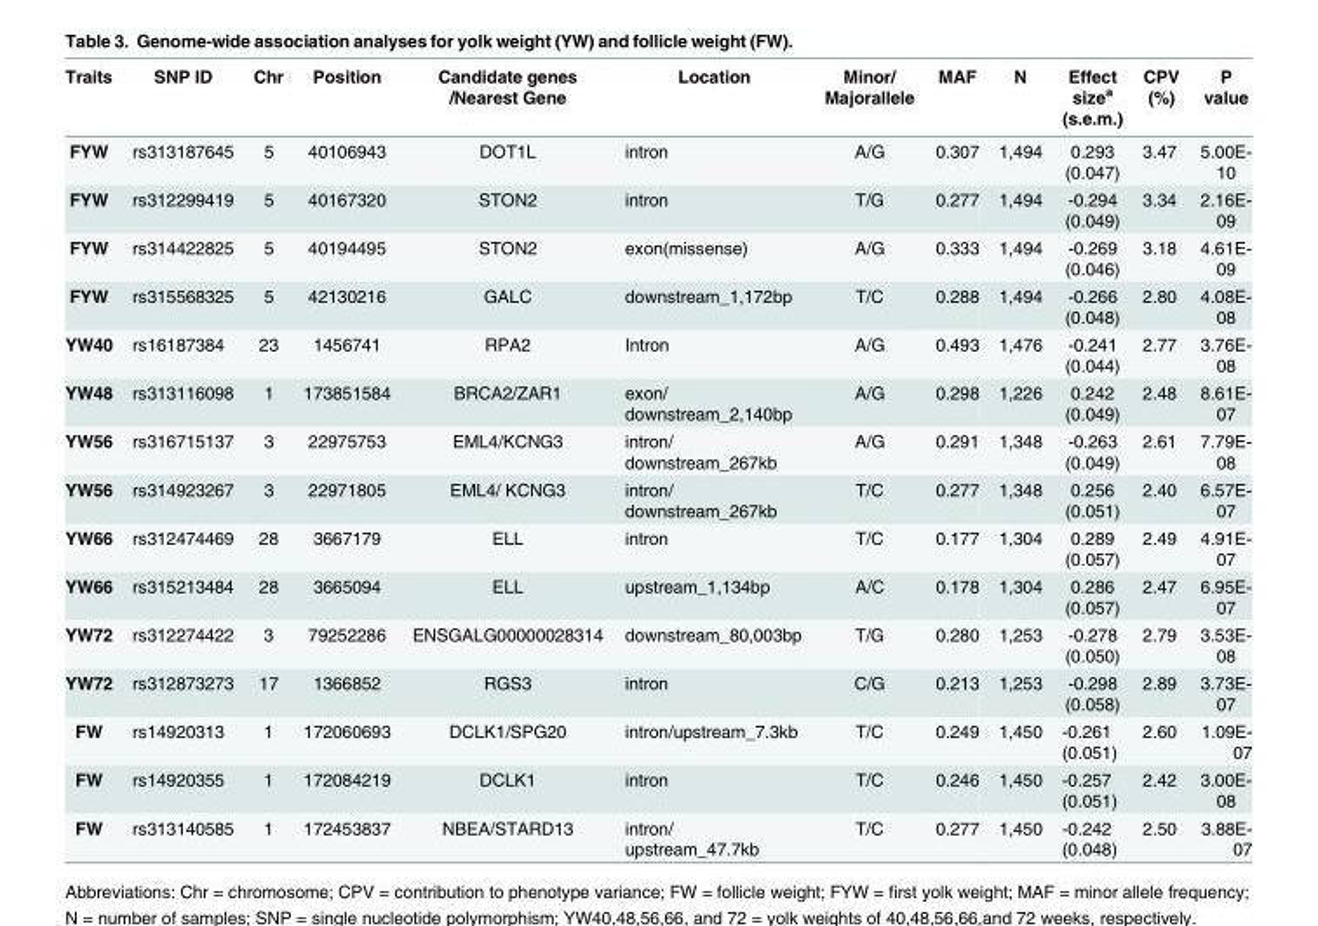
<table><thead><tr><td>Traits</td><td>SNP ID</td><td>Chr</td><td>Position</td><td>Candidate genes /Nearest Gene</td><td>Location</td><td>Minor/ Majorallele</td><td>MAF</td><td>N</td><td>Effect size<sup>a</sup> (s.e.m.)</td><td>CPV (%)</td><td>P value</td></tr></thead><tbody><tr><td>FYW</td><td>rs313187645</td><td>5</td><td>40106943</td><td>DOT1L</td><td>intron</td><td>A/G</td><td>0.307</td><td>1,494</td><td>0.293 (0.047)</td><td>3.47</td><td>5.00E- 10</td></tr><tr><td>FYW</td><td>rs312299419</td><td>5</td><td>40167320</td><td>STON2</td><td>intron</td><td>T/G</td><td>0.277</td><td>1,494</td><td>-0.294 (0.049)</td><td>3.34</td><td>2.16E- 09</td></tr><tr><td>FYW</td><td>rs314422825</td><td>5</td><td>40194495</td><td>STON2</td><td>exon(missense)</td><td>A/G</td><td>0.333</td><td>1,494</td><td>-0.269 (0.046)</td><td>3.18</td><td>4.61E- 09</td></tr><tr><td>FYW</td><td>rs315568325</td><td>5</td><td>42130216</td><td>GALC</td><td>downstream_1,172bp</td><td>T/C</td><td>0.288</td><td>1,494</td><td>-0.266 (0.048)</td><td>2.80</td><td>4.08E- 08</td></tr><tr><td>YW40</td><td>rs16187384</td><td>23</td><td>1456741</td><td>RPA2</td><td>Intron</td><td>A/G</td><td>0.493</td><td>1,476</td><td>-0.241 (0.044)</td><td>2.77</td><td>3.76E- 08</td></tr><tr><td>YW48</td><td>rs313116098</td><td>1</td><td>173851584</td><td>BRCA2/ZAR1</td><td>exon/ downstream_2,140bp</td><td>A/G</td><td>0.298</td><td>1,226</td><td>0.242 (0.049)</td><td>2.48</td><td>8.61E- 07</td></tr><tr><td>YW56</td><td>rs316715137</td><td>3</td><td>22975753</td><td>EML4/KCNG3</td><td>intron/ downstream_267kb</td><td>A/G</td><td>0.291</td><td>1,348</td><td>-0.263 (0.049)</td><td>2.61</td><td>7.79E- 08</td></tr><tr><td>YW56</td><td>rs314923267</td><td>3</td><td>22971805</td><td>EML4/ KCNG3</td><td>intron/ downstream_267kb</td><td>T/C</td><td>0.277</td><td>1,348</td><td>0.256 (0.051)</td><td>2.40</td><td>6.57E- 07</td></tr><tr><td>YW66</td><td>rs312474469</td><td>28</td><td>3667179</td><td>ELL</td><td>intron</td><td>T/C</td><td>0.177</td><td>1,304</td><td>0.289 (0.057)</td><td>2.49</td><td>4.91E- 07</td></tr><tr><td>YW66</td><td>rs315213484</td><td>28</td><td>3665094</td><td>ELL</td><td>upstream_1,134bp</td><td>A/C</td><td>0.178</td><td>1,304</td><td>0.286 (0.057)</td><td>2.47</td><td>6.95E- 07</td></tr><tr><td>YW72</td><td>rs312274422</td><td>3</td><td>79252286</td><td>ENSGALG00000028314</td><td>downstream_80,003bp</td><td>T/G</td><td>0.280</td><td>1,253</td><td>-0.278 (0.050)</td><td>2.79</td><td>3.53E- 08</td></tr><tr><td>YW72</td><td>rs312873273</td><td>17</td><td>1366852</td><td>RGS3</td><td>intron</td><td>C/G</td><td>0.213</td><td>1,253</td><td>-0.298 (0.058)</td><td>2.89</td><td>3.73E- 07</td></tr><tr><td>FW</td><td>rs14920313</td><td>1</td><td>172060693</td><td>DCLK1/SPG20</td><td>intron/upstream_7.3kb</td><td>T/C</td><td>0.249</td><td>1,450</td><td>-0.261 (0.051)</td><td>2.60</td><td>1.09E- 07</td></tr><tr><td>FW</td><td>rs14920355</td><td>1</td><td>172084219</td><td>DCLK1</td><td>intron</td><td>T/C</td><td>0.246</td><td>1,450</td><td>-0.257 (0.051)</td><td>2.42</td><td>3.00E- 08</td></tr><tr><td>FW</td><td>rs313140585</td><td>1</td><td>172453837</td><td>NBEA/STARD13</td><td>intron/ upstream_47.7kb</td><td>T/C</td><td>0.277</td><td>1,450</td><td>-0.242 (0.048)</td><td>2.50</td><td>3.88E- 07</td></tr></tbody></table>